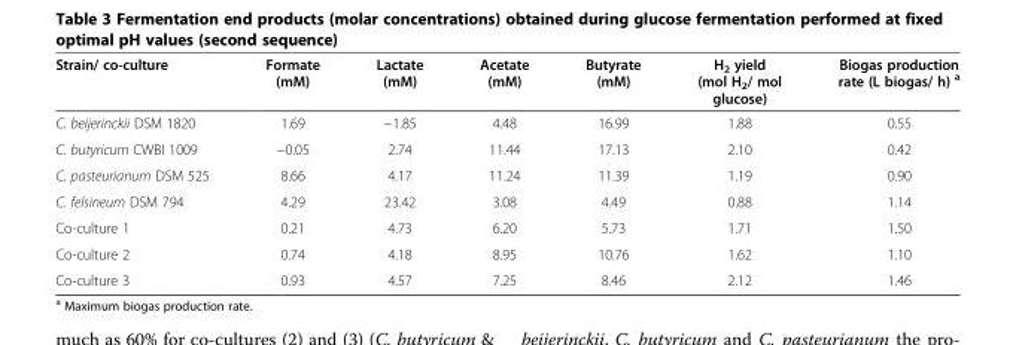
<table><thead><tr><td>Strain/ co-culture</td><td>Formate (mM)</td><td>Lactate (mM)</td><td>Acetate (mM)</td><td>Butyrate (mM)</td><td>H<sub>2</sub> yield (mol H<sub>2</sub>/ mol glucose)</td><td>Biogas production rate (L biogas/ h) <sup>a</sup></td></tr></thead><tbody><tr><td>C. beijerinckii DSM 1820</td><td>1.69</td><td>−1.85</td><td>4.48</td><td>16.99</td><td>1.88</td><td>0.55</td></tr><tr><td>C. butyricum CWBI 1009</td><td>−0.05</td><td>2.74</td><td>11.44</td><td>17.13</td><td>2.10</td><td>0.42</td></tr><tr><td>C. pasteurianum DSM 525</td><td>8.66</td><td>4.17</td><td>11.24</td><td>11.39</td><td>1.19</td><td>0.90</td></tr><tr><td>C. felsineum DSM 794</td><td>4.29</td><td>23.42</td><td>3.08</td><td>4.49</td><td>0.88</td><td>1.14</td></tr><tr><td>Co-culture 1</td><td>0.21</td><td>4.73</td><td>6.20</td><td>5.73</td><td>1.71</td><td>1.50</td></tr><tr><td>Co-culture 2</td><td>0.74</td><td>4.18</td><td>8.95</td><td>10.76</td><td>1.62</td><td>1.10</td></tr><tr><td>Co-culture 3</td><td>0.93</td><td>4.57</td><td>7.25</td><td>8.46</td><td>2.12</td><td>1.46</td></tr></tbody></table>